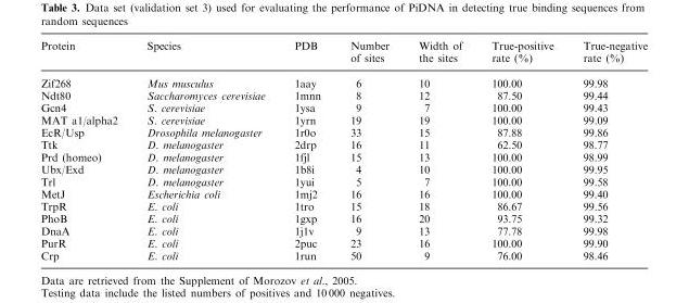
<table><thead><tr><td>Protein</td><td>Species</td><td>PDB</td><td>Number of sites</td><td>Width of the sites</td><td>True-positive rate (%)</td><td>True-negative rate (%)</td></tr></thead><tbody><tr><td>Zif268</td><td>Mus musculus</td><td>1aay</td><td>6</td><td>10</td><td>100.00</td><td>99.98</td></tr><tr><td>Ndt80</td><td>Saccharomyces cerevisiae</td><td>1mnn</td><td>8</td><td>12</td><td>87.50</td><td>99.44</td></tr><tr><td>Gcn4</td><td>S. cerevisiae</td><td>1ysa</td><td>9</td><td>7</td><td>100.00</td><td>99.43</td></tr><tr><td>MAT a1/alpha2</td><td>S. cerevisiae</td><td>1yrn</td><td>19</td><td>19</td><td>100.00</td><td>99.09</td></tr><tr><td>EcR/Usp</td><td>Drosophila melanogaster</td><td>1r0o</td><td>33</td><td>15</td><td>87.88</td><td>99.86</td></tr><tr><td>Ttk</td><td>D. melanogaster</td><td>2drp</td><td>16</td><td>11</td><td>62.50</td><td>98.77</td></tr><tr><td>Prd (homeo)</td><td>D. melanogaster</td><td>1fjl</td><td>15</td><td>13</td><td>100.00</td><td>98.99</td></tr><tr><td>Ubx/Exd</td><td>D. melanogaster</td><td>1b8i</td><td>4</td><td>10</td><td>100.00</td><td>99.95</td></tr><tr><td>Trl</td><td>D. melanogaster</td><td>1yui</td><td>5</td><td>7</td><td>100.00</td><td>99.58</td></tr><tr><td>MetJ</td><td>Escherichia coli</td><td>1mj2</td><td>16</td><td>16</td><td>100.00</td><td>99.40</td></tr><tr><td>TrpR</td><td>E. coli</td><td>1tro</td><td>15</td><td>18</td><td>86.67</td><td>99.56</td></tr><tr><td>PhoB</td><td>E. coli</td><td>1gxp</td><td>16</td><td>20</td><td>93.75</td><td>99.32</td></tr><tr><td>DnaA</td><td>E. coli</td><td>1j1v</td><td>9</td><td>13</td><td>77.78</td><td>99.98</td></tr><tr><td>PurR</td><td>E. coli</td><td>2puc</td><td>23</td><td>16</td><td>100.00</td><td>99.90</td></tr><tr><td>Crp</td><td>E. coli</td><td>1run</td><td>50</td><td>9</td><td>76.00</td><td>98.46</td></tr></tbody></table>